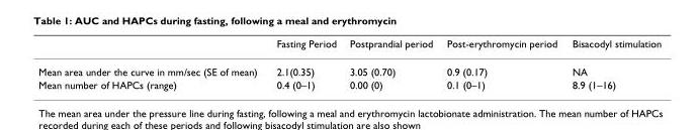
<table><thead><tr><td></td><td>Fasting Period</td><td>Postprandial period</td><td>Post-erythromycin period</td><td>Bisacodyl stimulation</td></tr></thead><tbody><tr><td>Mean area under the curve in mm/sec (SE of mean)</td><td>2.1(0.35)</td><td>3.05 (0.70)</td><td>0.9 (0.17)</td><td>NA</td></tr><tr><td>Mean number of HAPCs (range)</td><td>0.4 (0–1)</td><td>0.00 (0)</td><td>0.1 (0–1)</td><td>8.9 (1–16)</td></tr></tbody></table>